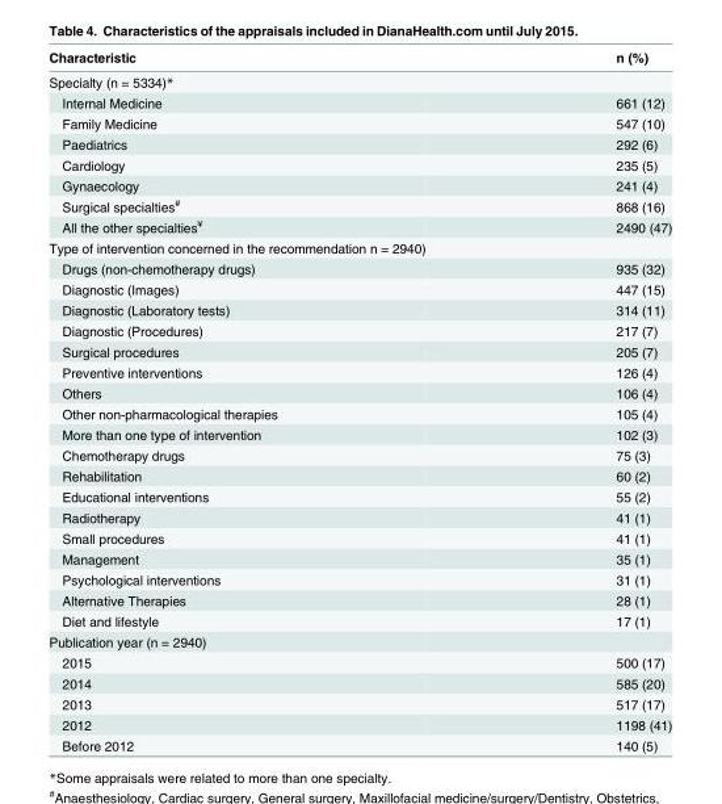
<table><thead><tr><td>Characteristic</td><td>n (%)</td></tr></thead><tbody><tr><td colspan="2">Specialty (n = 5334)*</td></tr><tr><td>Internal Medicine</td><td>661 (12)</td></tr><tr><td>Family Medicine</td><td>547 (10)</td></tr><tr><td>Paediatrics</td><td>292 (6)</td></tr><tr><td>Cardiology</td><td>235 (5)</td></tr><tr><td>Gynaecology</td><td>241 (4)</td></tr><tr><td>Surgical specialties<sup>#</sup></td><td>868 (16)</td></tr><tr><td>All the other specialties<sup>¥</sup></td><td>2490 (47)</td></tr><tr><td colspan="2">Type of intervention concerned in the recommendation n = 2940)</td></tr><tr><td>Drugs (non-chemotherapy drugs)</td><td>935 (32)</td></tr><tr><td>Diagnostic (Images)</td><td>447 (15)</td></tr><tr><td>Diagnostic (Laboratory tests)</td><td>314 (11)</td></tr><tr><td>Diagnostic (Procedures)</td><td>217 (7)</td></tr><tr><td>Surgical procedures</td><td>205 (7)</td></tr><tr><td>Preventive interventions</td><td>126 (4)</td></tr><tr><td>Others</td><td>106 (4)</td></tr><tr><td>Other non-pharmacological therapies</td><td>105 (4)</td></tr><tr><td>More than one type of intervention</td><td>102 (3)</td></tr><tr><td>Chemotherapy drugs</td><td>75 (3)</td></tr><tr><td>Rehabilitation</td><td>60 (2)</td></tr><tr><td>Educational interventions</td><td>55 (2)</td></tr><tr><td>Radiotherapy</td><td>41 (1)</td></tr><tr><td>Small procedures</td><td>41 (1)</td></tr><tr><td>Management</td><td>35 (1)</td></tr><tr><td>Psychological interventions</td><td>31 (1)</td></tr><tr><td>Alternative Therapies</td><td>28 (1)</td></tr><tr><td>Diet and lifestyle</td><td>17 (1)</td></tr><tr><td colspan="2">Publication year (n = 2940)</td></tr><tr><td>2015</td><td>500 (17)</td></tr><tr><td>2014</td><td>585 (20)</td></tr><tr><td>2013</td><td>517 (17)</td></tr><tr><td>2012</td><td>1198 (41)</td></tr><tr><td>Before 2012</td><td>140 (5)</td></tr></tbody></table>